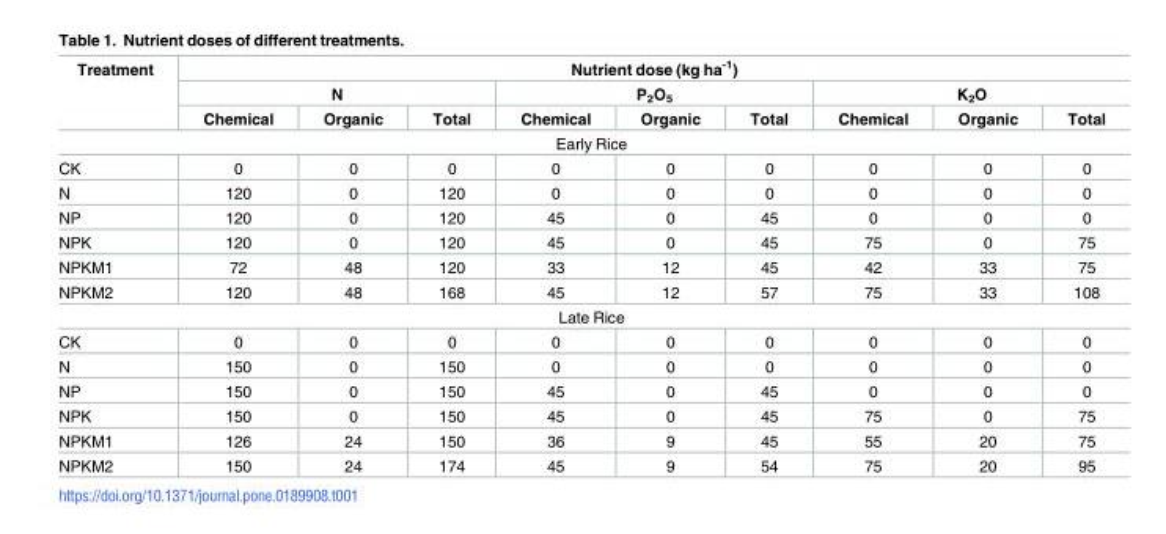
<table><thead><tr><td rowspan="3">Treatment</td><td colspan="9">Nutrient dose (kg ha<sup>-1</sup>)</td></tr><tr><td colspan="3">N</td><td colspan="3">P<sub>2</sub>O<sub>5</sub></td><td colspan="3">K<sub>2</sub>O</td></tr><tr><td>Chemical</td><td>Organic</td><td>Total</td><td>Chemical</td><td>Organic</td><td>Total</td><td>Chemical</td><td>Organic</td><td>Total</td></tr></thead><tbody><tr><td colspan="10">Early Rice</td></tr><tr><td>CK</td><td>0</td><td>0</td><td>0</td><td>0</td><td>0</td><td>0</td><td>0</td><td>0</td><td>0</td></tr><tr><td>N</td><td>120</td><td>0</td><td>120</td><td>0</td><td>0</td><td>0</td><td>0</td><td>0</td><td>0</td></tr><tr><td>NP</td><td>120</td><td>0</td><td>120</td><td>45</td><td>0</td><td>45</td><td>0</td><td>0</td><td>0</td></tr><tr><td>NPK</td><td>120</td><td>0</td><td>120</td><td>45</td><td>0</td><td>45</td><td>75</td><td>0</td><td>75</td></tr><tr><td>NPKM1</td><td>72</td><td>48</td><td>120</td><td>33</td><td>12</td><td>45</td><td>42</td><td>33</td><td>75</td></tr><tr><td>NPKM2</td><td>120</td><td>48</td><td>168</td><td>45</td><td>12</td><td>57</td><td>75</td><td>33</td><td>108</td></tr><tr><td colspan="10">Late Rice</td></tr><tr><td>CK</td><td>0</td><td>0</td><td>0</td><td>0</td><td>0</td><td>0</td><td>0</td><td>0</td><td>0</td></tr><tr><td>N</td><td>150</td><td>0</td><td>150</td><td>0</td><td>0</td><td>0</td><td>0</td><td>0</td><td>0</td></tr><tr><td>NP</td><td>150</td><td>0</td><td>150</td><td>45</td><td>0</td><td>45</td><td>0</td><td>0</td><td>0</td></tr><tr><td>NPK</td><td>150</td><td>0</td><td>150</td><td>45</td><td>0</td><td>45</td><td>75</td><td>0</td><td>75</td></tr><tr><td>NPKM1</td><td>126</td><td>24</td><td>150</td><td>36</td><td>9</td><td>45</td><td>55</td><td>20</td><td>75</td></tr><tr><td>NPKM2</td><td>150</td><td>24</td><td>174</td><td>45</td><td>9</td><td>54</td><td>75</td><td>20</td><td>95</td></tr></tbody></table>